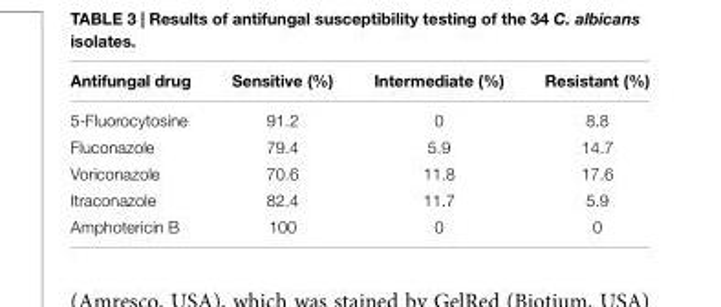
<table><thead><tr><td>Antifungal drug</td><td>Sensitive (%)</td><td>Intermediate (%)</td><td>Resistant (%)</td></tr></thead><tbody><tr><td>5-Fluorocytosine</td><td>91.2</td><td>0</td><td>8.8</td></tr><tr><td>Fluconazole</td><td>79.4</td><td>5.9</td><td>14.7</td></tr><tr><td>Voriconazole</td><td>70.6</td><td>11.8</td><td>17.6</td></tr><tr><td>Itraconazole</td><td>82.4</td><td>11.7</td><td>5.9</td></tr><tr><td>Amphotericin B</td><td>100</td><td>0</td><td>0</td></tr></tbody></table>